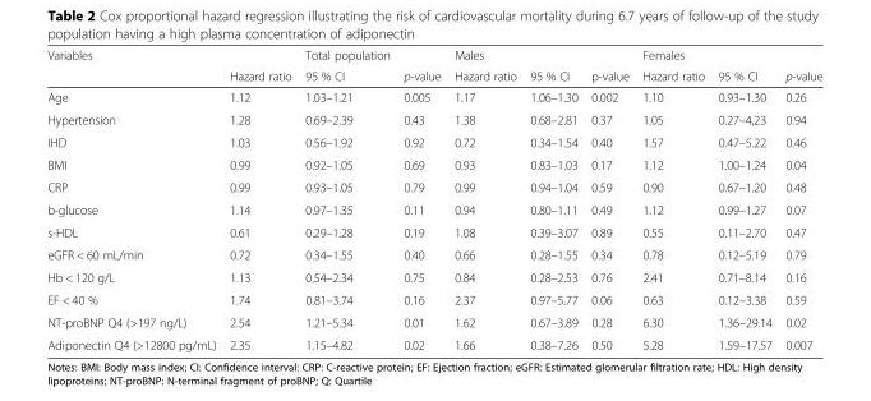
<table><thead><tr><td rowspan="2">Variables</td><td rowspan="2">Hazard ratio</td><td rowspan="2">Total population 95 % CI</td><td rowspan="2">p-value</td><td rowspan="2">Males Hazard ratio</td><td rowspan="2">95 % CI</td><td rowspan="2">p-value</td><td rowspan="2">Females Hazard ratio</td><td rowspan="2">95 % CI</td><td rowspan="2">p-value</td></tr><tr></tr></thead><tbody><tr><td>Age</td><td>1.12</td><td>1.03–1.21</td><td>0.005</td><td>1.17</td><td>1.06–1.30</td><td>0.002</td><td>1.10</td><td>0.93–1.30</td><td>0.26</td></tr><tr><td>Hypertension</td><td>1.28</td><td>0.69–2.39</td><td>0.43</td><td>1.38</td><td>0.68–2.81</td><td>0.37</td><td>1.05</td><td>0.27–4,23</td><td>0.94</td></tr><tr><td>IHD</td><td>1.03</td><td>0.56–1.92</td><td>0.92</td><td>0.72</td><td>0.34–1.54</td><td>0.40</td><td>1.57</td><td>0.47–5.22</td><td>0.46</td></tr><tr><td>BMI</td><td>0.99</td><td>0.92–1.05</td><td>0.69</td><td>0.93</td><td>0.83–1.03</td><td>0.17</td><td>1.12</td><td>1.00–1.24</td><td>0.04</td></tr><tr><td>CRP</td><td>0.99</td><td>0.93–1.05</td><td>0.79</td><td>0.99</td><td>0.94–1.04</td><td>0.59</td><td>0.90</td><td>0.67–1.20</td><td>0.48</td></tr><tr><td>b-glucose</td><td>1.14</td><td>0.97–1.35</td><td>0.11</td><td>0.94</td><td>0.80–1.11</td><td>0.49</td><td>1.12</td><td>0.99–1.27</td><td>0.07</td></tr><tr><td>s-HDL</td><td>0.61</td><td>0.29–1.28</td><td>0.19</td><td>1.08</td><td>0.39–3.07</td><td>0.89</td><td>0.55</td><td>0.11–2.70</td><td>0.47</td></tr><tr><td>eGFR &lt; 60 mL/min</td><td>0.72</td><td>0.34–1.55</td><td>0.40</td><td>0.66</td><td>0.28–1.55</td><td>0.34</td><td>0.78</td><td>0.12–5.19</td><td>0.79</td></tr><tr><td>Hb &lt; 120 g/L</td><td>1.13</td><td>0.54–2.34</td><td>0.75</td><td>0.84</td><td>0.28–2.53</td><td>0.76</td><td>2.41</td><td>0.71–8.14</td><td>0.16</td></tr><tr><td>EF &lt; 40 %</td><td>1.74</td><td>0.81–3.74</td><td>0.16</td><td>2.37</td><td>0.97–5.77</td><td>0.06</td><td>0.63</td><td>0.12–3.38</td><td>0.59</td></tr><tr><td>NT-proBNP Q4 (&gt;197 ng/L)</td><td>2.54</td><td>1.21–5.34</td><td>0.01</td><td>1.62</td><td>0.67–3.89</td><td>0.28</td><td>6.30</td><td>1.36–29.14</td><td>0.02</td></tr><tr><td>Adiponectin Q4 (&gt;12800 pg/mL)</td><td>2.35</td><td>1.15–4.82</td><td>0.02</td><td>1.66</td><td>0.38–7.26</td><td>0.50</td><td>5.28</td><td>1.59–17.57</td><td>0.007</td></tr></tbody></table>